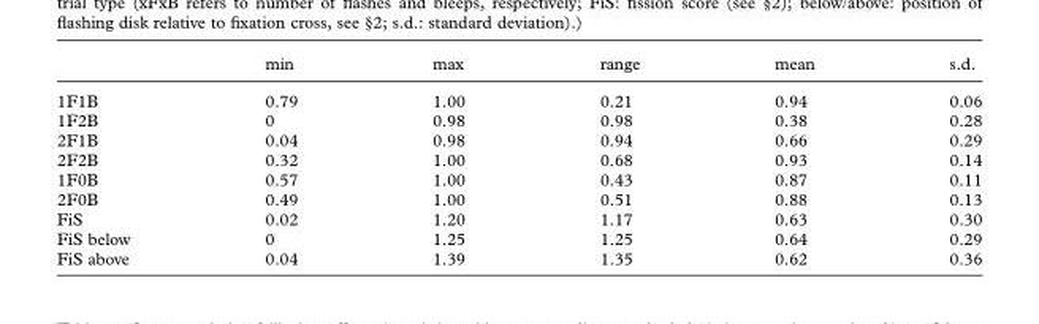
<table><thead><tr><td></td><td>min</td><td>max</td><td>range</td><td>mean</td><td>s.d.</td></tr></thead><tbody><tr><td>1F1B</td><td>0.79</td><td>1.00</td><td>0.21</td><td>0.94</td><td>0.06</td></tr><tr><td>1F2B</td><td>0</td><td>0.98</td><td>0.98</td><td>0.38</td><td>0.28</td></tr><tr><td>2F1B</td><td>0.04</td><td>0.98</td><td>0.94</td><td>0.66</td><td>0.29</td></tr><tr><td>2F2B</td><td>0.32</td><td>1.00</td><td>0.68</td><td>0.93</td><td>0.14</td></tr><tr><td>1F0B</td><td>0.57</td><td>1.00</td><td>0.43</td><td>0.87</td><td>0.11</td></tr><tr><td>2F0B</td><td>0.49</td><td>1.00</td><td>0.51</td><td>0.88</td><td>0.13</td></tr><tr><td>FiS</td><td>0.02</td><td>1.20</td><td>1.17</td><td>0.63</td><td>0.30</td></tr><tr><td>FiS below</td><td>0</td><td>1.25</td><td>1.25</td><td>0.64</td><td>0.29</td></tr><tr><td>FiS above</td><td>0.04</td><td>1.39</td><td>1.35</td><td>0.62</td><td>0.36</td></tr></tbody></table>